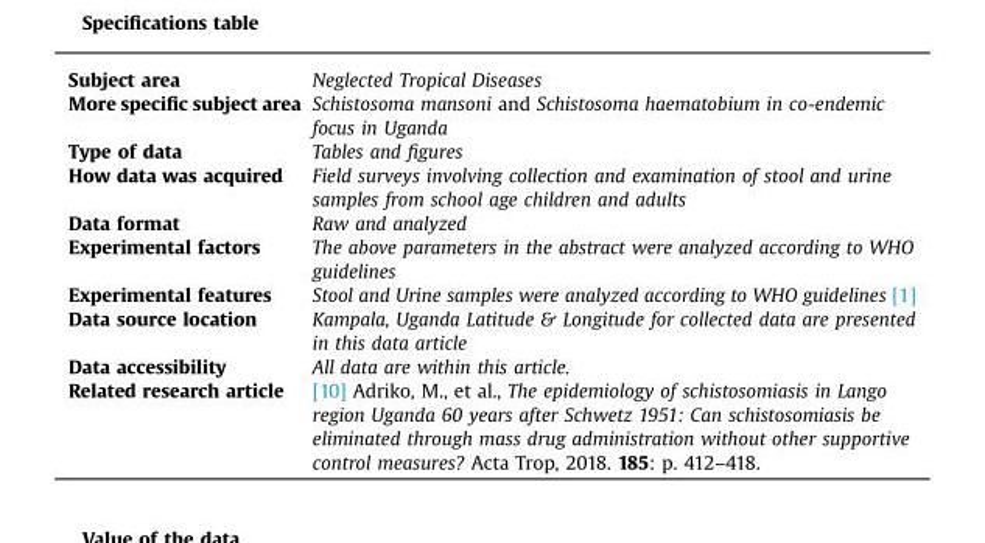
<table><tbody><tr><td>Subject area</td><td>Neglected Tropical Diseases</td></tr><tr><td>More specific subject area</td><td>Schistosoma mansoni and Schistosoma haematobium in co-endemic focus in Uganda</td></tr><tr><td>Type of data</td><td>Tables and figures</td></tr><tr><td>How data was acquired</td><td>Field surveys involving collection and examination of stool and urine samples from school age children and adults</td></tr><tr><td>Data format</td><td>Raw and analyzed</td></tr><tr><td>Experimental factors</td><td>The above parameters in the abstract were analyzed according to WHO guidelines</td></tr><tr><td>Experimental features</td><td>Stool and Urine samples were analyzed according to WHO guidelines [1]</td></tr><tr><td>Data source location</td><td>Kampala, Uganda Latitude &amp; Longitude for collected data are presented in this data article</td></tr><tr><td>Data accessibility</td><td>All data are within this article.</td></tr><tr><td>Related research article</td><td>[10] Adriko, M., et al., The epidemiology of schistosomiasis in Lango region Uganda 60 years after Schwetz 1951: Can schistosomiasis be eliminated through mass drug administration without other supportive control measures? Acta Trop, 2018. 185: p. 412–418.</td></tr></tbody></table>